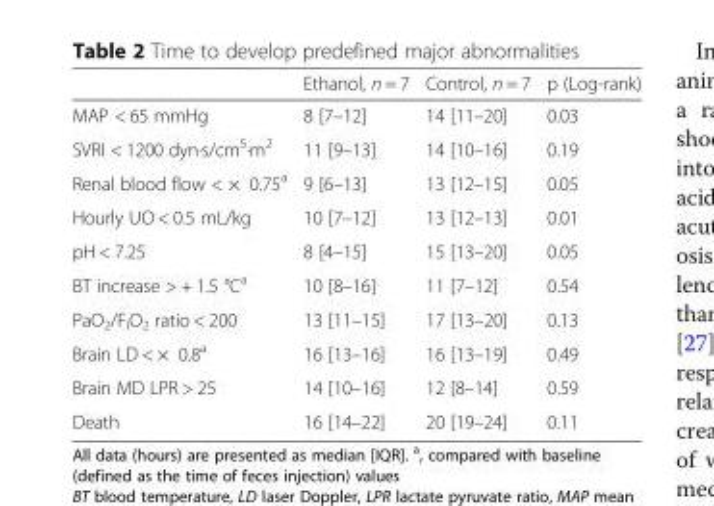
<table><thead><tr><td></td><td>Ethanol, n = 7</td><td>Control, n = 7</td><td>p (Log-rank)</td></tr></thead><tbody><tr><td>MAP &lt; 65 mmHg</td><td>8 [7–12]</td><td>14 [11–20]</td><td>0.03</td></tr><tr><td>SVRI &lt; 1200 dyn·s/cm<sup>5</sup>·m<sup>2</sup></td><td>11 [9–13]</td><td>14 [10–16]</td><td>0.19</td></tr><tr><td>Renal blood flow &lt; × 0.75<sup>a</sup></td><td>9 [6–13]</td><td>13 [12–15]</td><td>0.05</td></tr><tr><td>Hourly UO &lt; 0.5 mL/kg</td><td>10 [7–12]</td><td>13 [12–13]</td><td>0.01</td></tr><tr><td>pH &lt; 7.25</td><td>8 [4–15]</td><td>15 [13–20]</td><td>0.05</td></tr><tr><td>BT increase &gt; + 1.5 °C<sup>a</sup></td><td>10 [8–16]</td><td>11 [7–12]</td><td>0.54</td></tr><tr><td>PaO<sub>2</sub>/F<sub>I</sub>O<sub>2</sub> ratio &lt; 200</td><td>13 [11–15]</td><td>17 [13–20]</td><td>0.13</td></tr><tr><td>Brain LD &lt; × 0.8<sup>a</sup></td><td>16 [13–16]</td><td>16 [13–19]</td><td>0.49</td></tr><tr><td>Brain MD LPR &gt; 25</td><td>14 [10–16]</td><td>12 [8–14]</td><td>0.59</td></tr><tr><td>Death</td><td>16 [14–22]</td><td>20 [19–24]</td><td>0.11</td></tr></tbody></table>